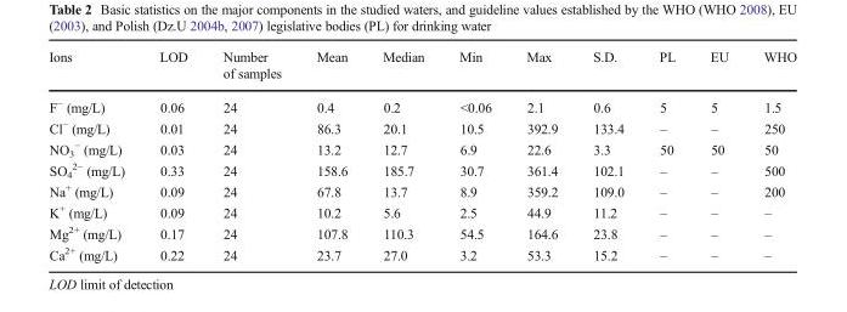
<table><thead><tr><td>Ions</td><td>LOD</td><td>Number of samples</td><td>Mean</td><td>Median</td><td>Min</td><td>Max</td><td>S.D.</td><td>PL</td><td>EU</td><td>WHO</td></tr></thead><tbody><tr><td>F<sup>−</sup> (mg/L)</td><td>0.06</td><td>24</td><td>0.4</td><td>0.2</td><td>&lt;0.06</td><td>2.1</td><td>0.6</td><td>5</td><td>5</td><td>1.5</td></tr><tr><td>Cl<sup>−</sup> (mg/L)</td><td>0.01</td><td>24</td><td>86.3</td><td>20.1</td><td>10.5</td><td>392.9</td><td>133.4</td><td>–</td><td>–</td><td>250</td></tr><tr><td>NO<sub>3</sub> <sup>−</sup> (mg/L)</td><td>0.03</td><td>24</td><td>13.2</td><td>12.7</td><td>6.9</td><td>22.6</td><td>3.3</td><td>50</td><td>50</td><td>50</td></tr><tr><td>SO<sub>4</sub> <sup>2−</sup> (mg/L)</td><td>0.33</td><td>24</td><td>158.6</td><td>185.7</td><td>30.7</td><td>361.4</td><td>102.1</td><td>–</td><td>–</td><td>500</td></tr><tr><td>Na<sup>+</sup> (mg/L)</td><td>0.09</td><td>24</td><td>67.8</td><td>13.7</td><td>8.9</td><td>359.2</td><td>109.0</td><td>–</td><td>–</td><td>200</td></tr><tr><td>K<sup>+</sup> (mg/L)</td><td>0.09</td><td>24</td><td>10.2</td><td>5.6</td><td>2.5</td><td>44.9</td><td>11.2</td><td>–</td><td>–</td><td>–</td></tr><tr><td>Mg<sup>2+</sup> (mg/L)</td><td>0.17</td><td>24</td><td>107.8</td><td>110.3</td><td>54.5</td><td>164.6</td><td>23.8</td><td>–</td><td>–</td><td>–</td></tr><tr><td>Ca<sup>2+</sup> (mg/L)</td><td>0.22</td><td>24</td><td>23.7</td><td>27.0</td><td>3.2</td><td>53.3</td><td>15.2</td><td>–</td><td>–</td><td>–</td></tr></tbody></table>